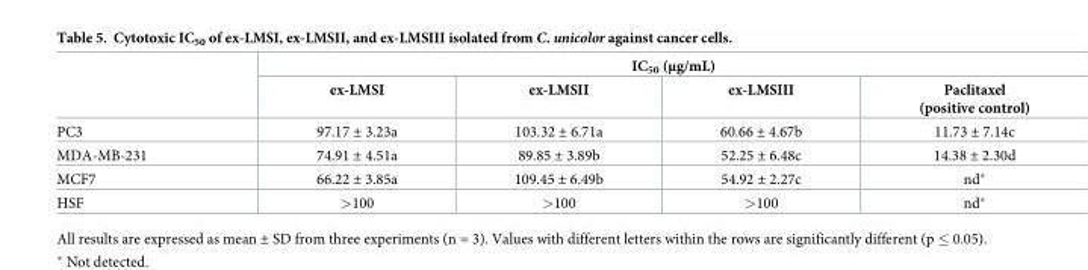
<table><thead><tr><td rowspan="2"></td><td colspan="4">IC<sub>50</sub> (μg/mL)</td></tr><tr><td>ex-LMSI</td><td>ex-LMSII</td><td>ex-LMSIII</td><td>Paclitaxel (positive control)</td></tr></thead><tbody><tr><td>PC3</td><td>97.17 ± 3.23a</td><td>103.32 ± 6.71a</td><td>60.66 ± 4.67b</td><td>11.73 ± 7.14c</td></tr><tr><td>MDA-MB-231</td><td>74.91 ± 4.51a</td><td>89.85 ± 3.89b</td><td>52.25 ± 6.48c</td><td>14.38 ± 2.30d</td></tr><tr><td>MCF7</td><td>66.22 ± 3.85a</td><td>109.45 ± 6.49b</td><td>54.92 ± 2.27c</td><td>nd*</td></tr><tr><td>HSF</td><td>&gt;100</td><td>&gt;100</td><td>&gt;100</td><td>nd*</td></tr></tbody></table>